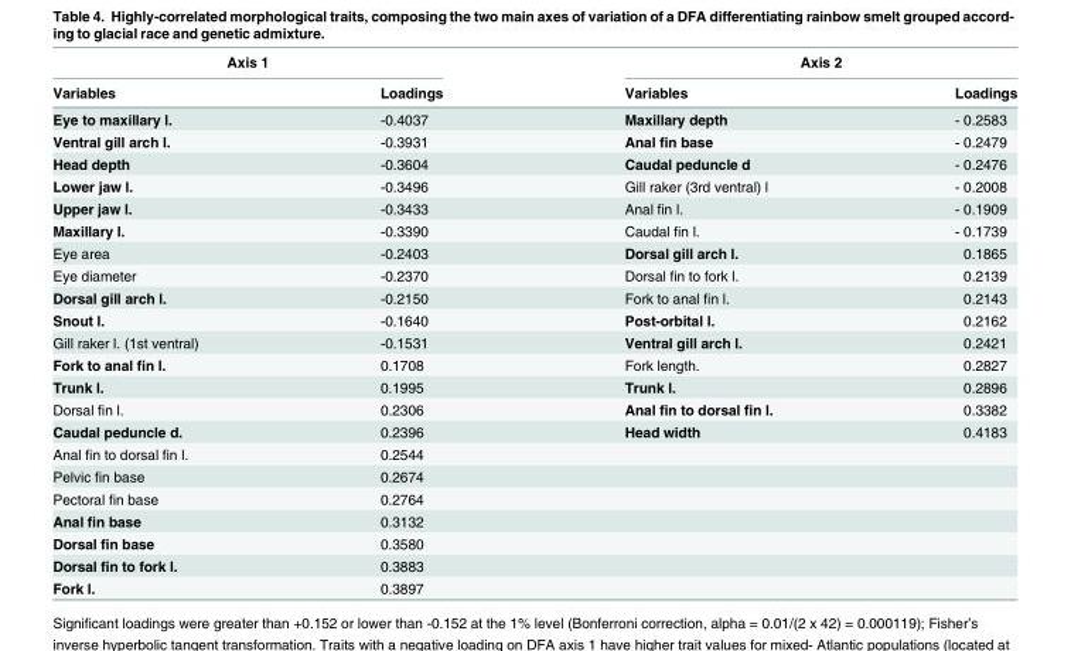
<table><thead><tr><td colspan="2">Axis 1</td><td colspan="2">Axis 2</td></tr><tr><td>Variables</td><td>Loadings</td><td>Variables</td><td>Loadings</td></tr></thead><tbody><tr><td>Eye to maxillary l.</td><td>-0.4037</td><td>Maxillary depth</td><td>- 0.2583</td></tr><tr><td>Ventral gill arch l.</td><td>-0.3931</td><td>Anal fin base</td><td>- 0.2479</td></tr><tr><td>Head depth</td><td>-0.3604</td><td>Caudal peduncle d</td><td>- 0.2476</td></tr><tr><td>Lower jaw l.</td><td>-0.3496</td><td>Gill raker (3rd ventral) l</td><td>- 0.2008</td></tr><tr><td>Upper jaw l.</td><td>-0.3433</td><td>Anal fin l.</td><td>- 0.1909</td></tr><tr><td>Maxillary l.</td><td>-0.3390</td><td>Caudal fin l.</td><td>- 0.1739</td></tr><tr><td>Eye area</td><td>-0.2403</td><td>Dorsal gill arch l.</td><td>0.1865</td></tr><tr><td>Eye diameter</td><td>-0.2370</td><td>Dorsal fin to fork l.</td><td>0.2139</td></tr><tr><td>Dorsal gill arch l.</td><td>-0.2150</td><td>Fork to anal fin l.</td><td>0.2143</td></tr><tr><td>Snout l.</td><td>-0.1640</td><td>Post-orbital l.</td><td>0.2162</td></tr><tr><td>Gill raker l. (1st ventral)</td><td>-0.1531</td><td>Ventral gill arch l.</td><td>0.2421</td></tr><tr><td>Fork to anal fin l.</td><td>0.1708</td><td>Fork length.</td><td>0.2827</td></tr><tr><td>Trunk l.</td><td>0.1995</td><td>Trunk l.</td><td>0.2896</td></tr><tr><td>Dorsal fin l.</td><td>0.2306</td><td>Anal fin to dorsal fin l.</td><td>0.3382</td></tr><tr><td>Caudal peduncle d.</td><td>0.2396</td><td>Head width</td><td>0.4183</td></tr><tr><td>Anal fin to dorsal fin l.</td><td>0.2544</td><td></td><td></td></tr><tr><td>Pelvic fin base</td><td>0.2674</td><td></td><td></td></tr><tr><td>Pectoral fin base</td><td>0.2764</td><td></td><td></td></tr><tr><td>Anal fin base</td><td>0.3132</td><td></td><td></td></tr><tr><td>Dorsal fin base</td><td>0.3580</td><td></td><td></td></tr><tr><td>Dorsal fin to fork l.</td><td>0.3883</td><td></td><td></td></tr><tr><td>Fork l.</td><td>0.3897</td><td></td><td></td></tr></tbody></table>